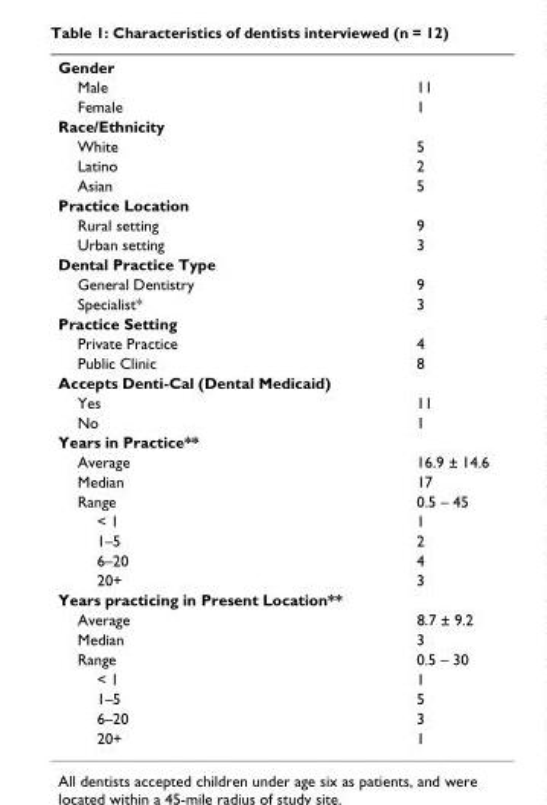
<table><tbody><tr><td colspan="2">Gender</td></tr><tr><td>Male</td><td>11</td></tr><tr><td>Female</td><td>1</td></tr><tr><td colspan="2">Race/Ethnicity</td></tr><tr><td>White</td><td>5</td></tr><tr><td>Latino</td><td>2</td></tr><tr><td>Asian</td><td>5</td></tr><tr><td colspan="2">Practice Location</td></tr><tr><td>Rural setting</td><td>9</td></tr><tr><td>Urban setting</td><td>3</td></tr><tr><td colspan="2">Dental Practice Type</td></tr><tr><td>General Dentistry</td><td>9</td></tr><tr><td>Specialist*</td><td>3</td></tr><tr><td colspan="2">Practice Setting</td></tr><tr><td>Private Practice</td><td>4</td></tr><tr><td>Public Clinic</td><td>8</td></tr><tr><td colspan="2">Accepts Denti-Cal (Dental Medicaid)</td></tr><tr><td>Yes</td><td>11</td></tr><tr><td>No</td><td>1</td></tr><tr><td colspan="2">Years in Practice**</td></tr><tr><td>Average</td><td>16.9 ± 14.6</td></tr><tr><td>Median</td><td>17</td></tr><tr><td>Range</td><td>0.5 – 45</td></tr><tr><td>&lt; 1</td><td>1</td></tr><tr><td>1–5</td><td>2</td></tr><tr><td>6–20</td><td>4</td></tr><tr><td>20+</td><td>3</td></tr><tr><td colspan="2">Years practicing in Present Location**</td></tr><tr><td>Average</td><td>8.7 ± 9.2</td></tr><tr><td>Median</td><td>3</td></tr><tr><td>Range</td><td>0.5 – 30</td></tr><tr><td>&lt; 1</td><td>1</td></tr><tr><td>1–5</td><td>5</td></tr><tr><td>6–20</td><td>3</td></tr><tr><td>20+</td><td>1</td></tr></tbody></table>